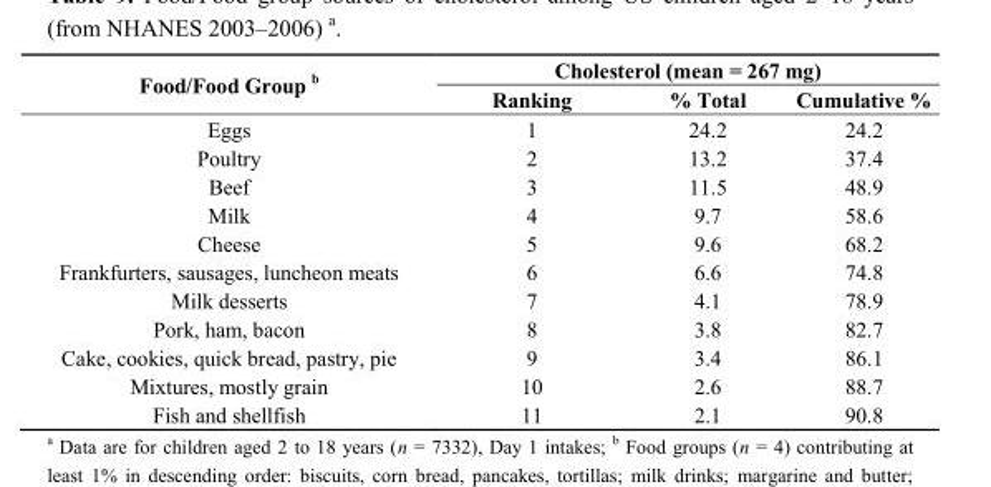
<table><thead><tr><td rowspan="2">Food/Food Group <sup>b</sup></td><td colspan="3">Cholesterol (mean = 267 mg)</td></tr><tr><td>Ranking</td><td>% Total</td><td>Cumulative %</td></tr></thead><tbody><tr><td>Eggs</td><td>1</td><td>24.2</td><td>24.2</td></tr><tr><td>Poultry</td><td>2</td><td>13.2</td><td>37.4</td></tr><tr><td>Beef</td><td>3</td><td>11.5</td><td>48.9</td></tr><tr><td>Milk</td><td>4</td><td>9.7</td><td>58.6</td></tr><tr><td>Cheese</td><td>5</td><td>9.6</td><td>68.2</td></tr><tr><td>Frankfurters, sausages, luncheon meats</td><td>6</td><td>6.6</td><td>74.8</td></tr><tr><td>Milk desserts</td><td>7</td><td>4.1</td><td>78.9</td></tr><tr><td>Pork, ham, bacon</td><td>8</td><td>3.8</td><td>82.7</td></tr><tr><td>Cake, cookies, quick bread, pastry, pie</td><td>9</td><td>3.4</td><td>86.1</td></tr><tr><td>Mixtures, mostly grain</td><td>10</td><td>2.6</td><td>88.7</td></tr><tr><td>Fish and shellfish</td><td>11</td><td>2.1</td><td>90.8</td></tr></tbody></table>